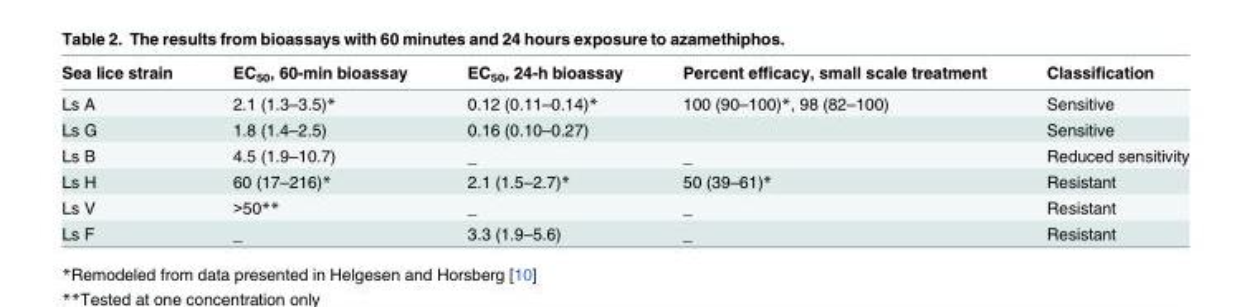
<table><thead><tr><td>Sea lice strain</td><td>EC<sub>50</sub>, 60-min bioassay</td><td>EC<sub>50</sub>, 24-h bioassay</td><td>Percent efficacy, small scale treatment</td><td>Classification</td></tr></thead><tbody><tr><td>Ls A</td><td>2.1 (1.3–3.5)*</td><td>0.12 (0.11–0.14)*</td><td>100 (90–100)*, 98 (82–100)</td><td>Sensitive</td></tr><tr><td>Ls G</td><td>1.8 (1.4–2.5)</td><td>0.16 (0.10–0.27)</td><td></td><td>Sensitive</td></tr><tr><td>Ls B</td><td>4.5 (1.9–10.7)</td><td>_</td><td>_</td><td>Reduced sensitivity</td></tr><tr><td>Ls H</td><td>60 (17–216)*</td><td>2.1 (1.5–2.7)*</td><td>50 (39–61)*</td><td>Resistant</td></tr><tr><td>Ls V</td><td>&gt;50**</td><td>_</td><td>_</td><td>Resistant</td></tr><tr><td>Ls F</td><td>_</td><td>3.3 (1.9–5.6)</td><td>_</td><td>Resistant</td></tr></tbody></table>